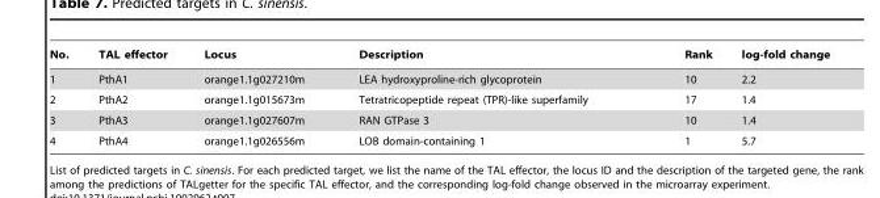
<table><thead><tr><td>No.</td><td>TAL effector</td><td>Locus</td><td>Description</td><td>Rank</td><td>log-fold change</td></tr></thead><tbody><tr><td>1</td><td>PthA1</td><td>orange1.1g027210m</td><td>LEA hydroxyproline-rich glycoprotein</td><td>10</td><td>2.2</td></tr><tr><td>2</td><td>PthA2</td><td>orange1.1g015673m</td><td>Tetratricopeptide repeat (TPR)-like superfamily</td><td>17</td><td>1.4</td></tr><tr><td>3</td><td>PthA3</td><td>orange1.1g027607m</td><td>RAN GTPase 3</td><td>10</td><td>1.4</td></tr><tr><td>4</td><td>PthA4</td><td>orange1.1g026556m</td><td>LOB domain-containing 1</td><td>1</td><td>5.7</td></tr></tbody></table>